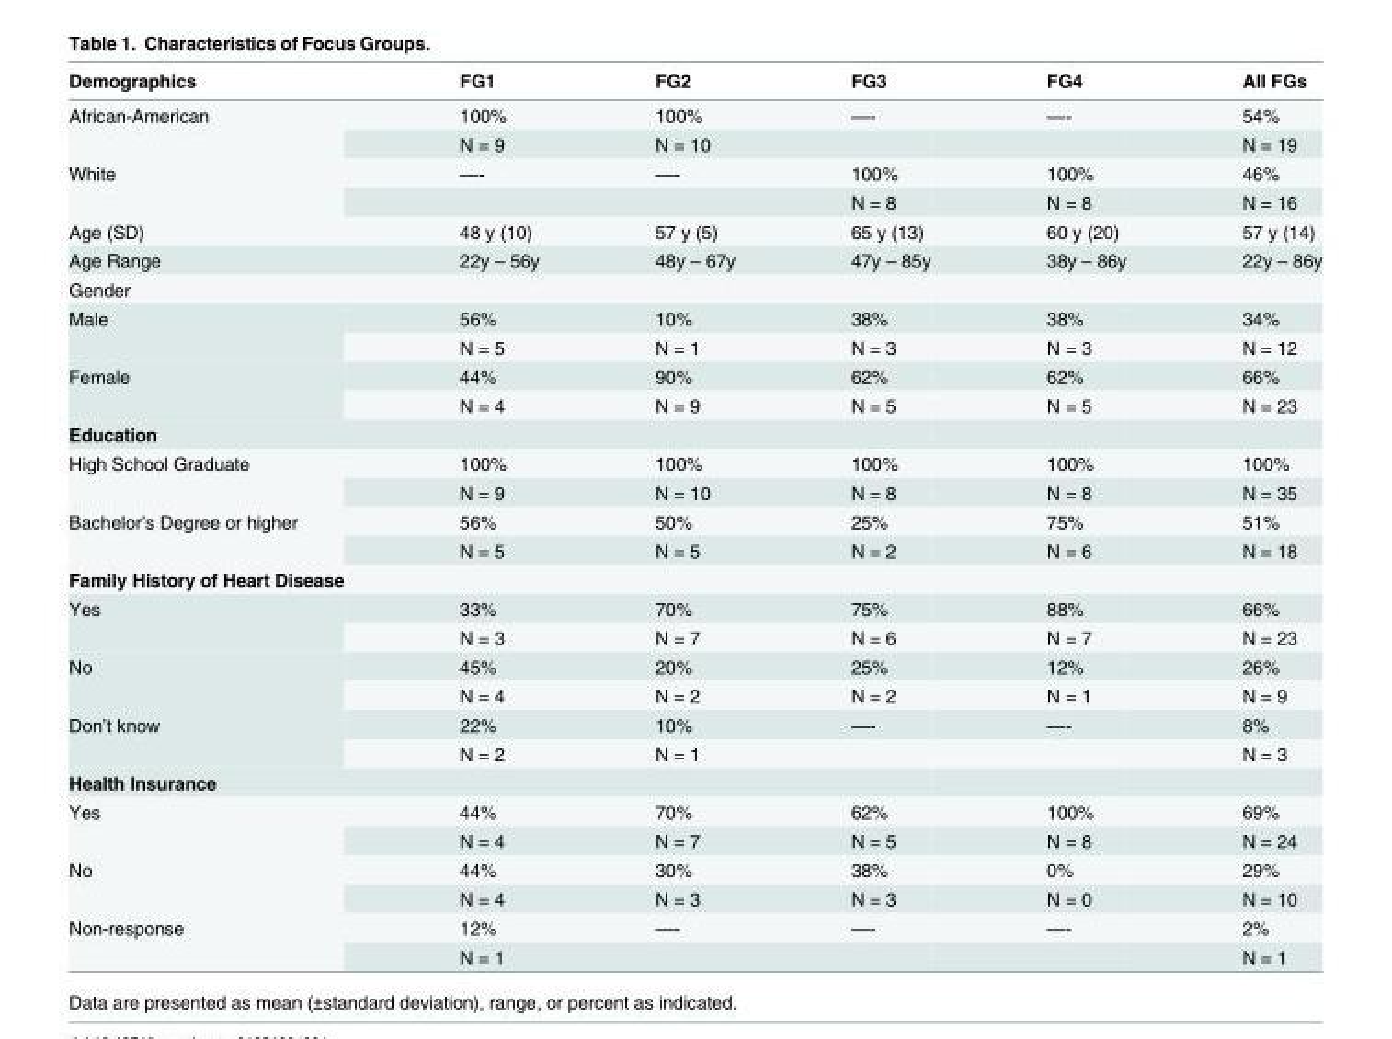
<table><thead><tr><td>Demographics</td><td>FG1</td><td>FG2</td><td>FG3</td><td>FG4</td><td>All FGs</td></tr></thead><tbody><tr><td rowspan="2">African-American</td><td>100%</td><td>100%</td><td>—-</td><td>—-</td><td>54%</td></tr><tr><td>N = 9</td><td>N = 10</td><td></td><td></td><td>N = 19</td></tr><tr><td rowspan="2">White</td><td>—-</td><td>—-</td><td>100%</td><td>100%</td><td>46%</td></tr><tr><td></td><td></td><td>N = 8</td><td>N = 8</td><td>N = 16</td></tr><tr><td>Age (SD)</td><td>48 y (10)</td><td>57 y (5)</td><td>65 y (13)</td><td>60 y (20)</td><td>57 y (14)</td></tr><tr><td>Age Range</td><td>22y – 56y</td><td>48y – 67y</td><td>47y – 85y</td><td>38y – 86y</td><td>22y – 86y</td></tr><tr><td colspan="6">Gender</td></tr><tr><td rowspan="2">Male</td><td>56%</td><td>10%</td><td>38%</td><td>38%</td><td>34%</td></tr><tr><td>N = 5</td><td>N = 1</td><td>N = 3</td><td>N = 3</td><td>N = 12</td></tr><tr><td rowspan="2">Female</td><td>44%</td><td>90%</td><td>62%</td><td>62%</td><td>66%</td></tr><tr><td>N = 4</td><td>N = 9</td><td>N = 5</td><td>N = 5</td><td>N = 23</td></tr><tr><td colspan="6">Education</td></tr><tr><td rowspan="2">High School Graduate</td><td>100%</td><td>100%</td><td>100%</td><td>100%</td><td>100%</td></tr><tr><td>N = 9</td><td>N = 10</td><td>N = 8</td><td>N = 8</td><td>N = 35</td></tr><tr><td rowspan="2">Bachelor’s Degree or higher</td><td>56%</td><td>50%</td><td>25%</td><td>75%</td><td>51%</td></tr><tr><td>N = 5</td><td>N = 5</td><td>N = 2</td><td>N = 6</td><td>N = 18</td></tr><tr><td colspan="6">Family History of Heart Disease</td></tr><tr><td rowspan="2">Yes</td><td>33%</td><td>70%</td><td>75%</td><td>88%</td><td>66%</td></tr><tr><td>N = 3</td><td>N = 7</td><td>N = 6</td><td>N = 7</td><td>N = 23</td></tr><tr><td rowspan="2">No</td><td>45%</td><td>20%</td><td>25%</td><td>12%</td><td>26%</td></tr><tr><td>N = 4</td><td>N = 2</td><td>N = 2</td><td>N = 1</td><td>N = 9</td></tr><tr><td rowspan="2">Don’t know</td><td>22%</td><td>10%</td><td>—-</td><td>—-</td><td>8%</td></tr><tr><td>N = 2</td><td>N = 1</td><td></td><td></td><td>N = 3</td></tr><tr><td colspan="6">Health Insurance</td></tr><tr><td rowspan="2">Yes</td><td>44%</td><td>70%</td><td>62%</td><td>100%</td><td>69%</td></tr><tr><td>N = 4</td><td>N = 7</td><td>N = 5</td><td>N = 8</td><td>N = 24</td></tr><tr><td rowspan="2">No</td><td>44%</td><td>30%</td><td>38%</td><td>0%</td><td>29%</td></tr><tr><td>N = 4</td><td>N = 3</td><td>N = 3</td><td>N = 0</td><td>N = 10</td></tr><tr><td rowspan="2">Non-response</td><td>12%</td><td>—-</td><td>—-</td><td>—-</td><td>2%</td></tr><tr><td>N = 1</td><td></td><td></td><td></td><td>N = 1</td></tr></tbody></table>